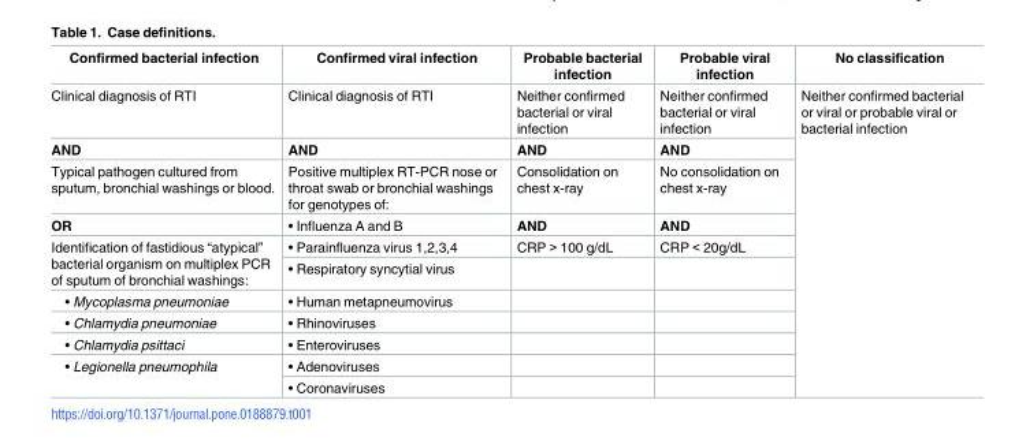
<table><thead><tr><td>Confirmed bacterial infection</td><td>Confirmed viral infection</td><td>Probable bacterial infection</td><td>Probable viral infection</td><td>No classification</td></tr></thead><tbody><tr><td>Clinical diagnosis of RTI</td><td>Clinical diagnosis of RTI</td><td>Neither confirmed bacterial or viral infection</td><td>Neither confirmed bacterial or viral infection</td><td rowspan="11">Neither confirmed bacterial or viral or probable viral or bacterial infection</td></tr><tr><td>AND</td><td>AND</td><td>AND</td><td>AND</td></tr><tr><td>Typical pathogen cultured from sputum, bronchial washings or blood.</td><td>Positive multiplex RT-PCR nose or throat swab or bronchial washings for genotypes of:</td><td>Consolidation on chest x-ray</td><td>No consolidation on chest x-ray</td></tr><tr><td>OR</td><td>• Influenza A and B</td><td>AND</td><td>AND</td></tr><tr><td rowspan="2">Identification of fastidious “atypical” bacterial organism on multiplex PCR of sputum of bronchial washings:</td><td>• Parainfluenza virus 1,2,3,4</td><td>CRP &gt; 100 g/dL</td><td>CRP &lt; 20g/dL</td></tr><tr><td>• Respiratory syncytial virus</td><td></td><td></td></tr><tr><td>• Mycoplasma pneumoniae</td><td>• Human metapneumovirus</td><td></td><td></td></tr><tr><td>• Chlamydia pneumoniae</td><td>• Rhinoviruses</td><td></td><td></td></tr><tr><td>• Chlamydia psittaci</td><td>• Enteroviruses</td><td></td><td></td></tr><tr><td rowspan="2">• Legionella pneumophila</td><td>• Adenoviruses</td><td></td><td></td></tr><tr><td>• Coronaviruses</td><td></td><td></td></tr></tbody></table>